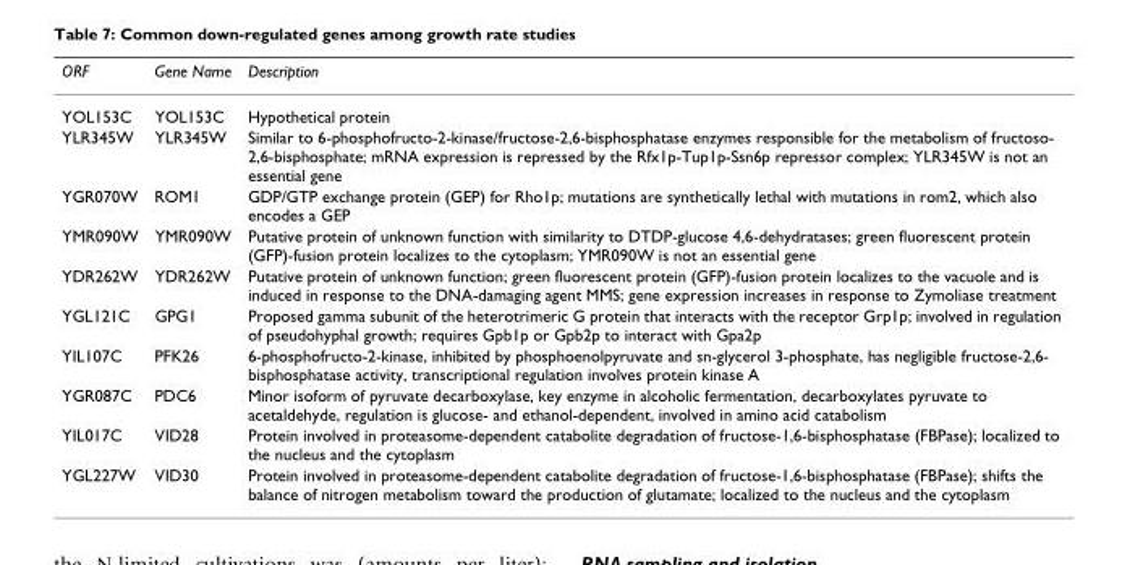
<table><thead><tr><td>ORF</td><td>Gene Name</td><td>Description</td></tr></thead><tbody><tr><td>YOL153C</td><td>YOL153C</td><td>Hypothetical protein</td></tr><tr><td>YLR345W</td><td>YLR345W</td><td>Similar to 6-phosphofructo-2-kinase/fructose-2,6-bisphosphatase enzymes responsible for the metabolism of fructoso- 2,6-bisphosphate; mRNA expression is repressed by the Rfx1p-Tup1p-Ssn6p repressor complex; YLR345W is not an essential gene</td></tr><tr><td>YGR070W</td><td>ROM1</td><td>GDP/GTP exchange protein (GEP) for Rho1p; mutations are synthetically lethal with mutations in rom2, which also encodes a GEP</td></tr><tr><td>YMR090W</td><td>YMR090W</td><td>Putative protein of unknown function with similarity to DTDP-glucose 4,6-dehydratases; green fluorescent protein (GFP)-fusion protein localizes to the cytoplasm; YMR090W is not an essential gene</td></tr><tr><td>YDR262W</td><td>YDR262W</td><td>Putative protein of unknown function; green fluorescent protein (GFP)-fusion protein localizes to the vacuole and is induced in response to the DNA-damaging agent MMS; gene expression increases in response to Zymoliase treatment</td></tr><tr><td>YGL121C</td><td>GPG1</td><td>Proposed gamma subunit of the heterotrimeric G protein that interacts with the receptor Grp1p; involved in regulation of pseudohyphal growth; requires Gpb1p or Gpb2p to interact with Gpa2p</td></tr><tr><td>YIL107C</td><td>PFK26</td><td>6-phosphofructo-2-kinase, inhibited by phosphoenolpyruvate and sn-glycerol 3-phosphate, has negligible fructose-2,6- bisphosphatase activity, transcriptional regulation involves protein kinase A</td></tr><tr><td>YGR087C</td><td>PDC6</td><td>Minor isoform of pyruvate decarboxylase, key enzyme in alcoholic fermentation, decarboxylates pyruvate to acetaldehyde, regulation is glucose- and ethanol-dependent, involved in amino acid catabolism</td></tr><tr><td>YIL017C</td><td>VID28</td><td>Protein involved in proteasome-dependent catabolite degradation of fructose-1,6-bisphosphatase (FBPase); localized to the nucleus and the cytoplasm</td></tr><tr><td>YGL227W</td><td>VID30</td><td>Protein involved in proteasome-dependent catabolite degradation of fructose-1,6-bisphosphatase (FBPase); shifts the balance of nitrogen metabolism toward the production of glutamate; localized to the nucleus and the cytoplasm</td></tr></tbody></table>